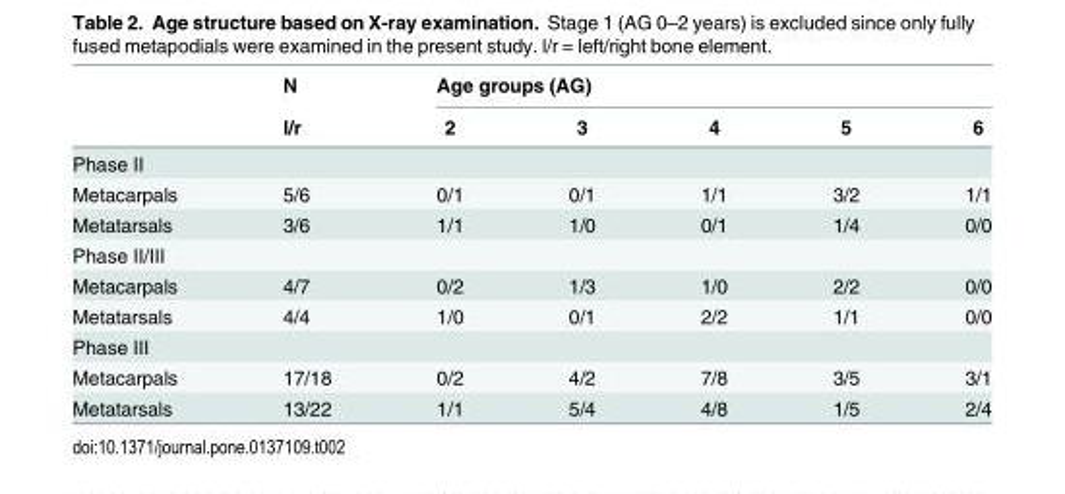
<table><thead><tr><td rowspan="2"></td><td rowspan="2">N l/r</td><td colspan="5">Age groups (AG)</td></tr><tr><td>2</td><td>3</td><td>4</td><td>5</td><td>6</td></tr></thead><tbody><tr><td colspan="7">Phase II</td></tr><tr><td>Metacarpals</td><td>5/6</td><td>0/1</td><td>0/1</td><td>1/1</td><td>3/2</td><td>1/1</td></tr><tr><td>Metatarsals</td><td>3/6</td><td>1/1</td><td>1/0</td><td>0/1</td><td>1/4</td><td>0/0</td></tr><tr><td colspan="7">Phase II/III</td></tr><tr><td>Metacarpals</td><td>4/7</td><td>0/2</td><td>1/3</td><td>1/0</td><td>2/2</td><td>0/0</td></tr><tr><td>Metatarsals</td><td>4/4</td><td>1/0</td><td>0/1</td><td>2/2</td><td>1/1</td><td>0/0</td></tr><tr><td colspan="7">Phase III</td></tr><tr><td>Metacarpals</td><td>17/18</td><td>0/2</td><td>4/2</td><td>7/8</td><td>3/5</td><td>3/1</td></tr><tr><td>Metatarsals</td><td>13/22</td><td>1/1</td><td>5/4</td><td>4/8</td><td>1/5</td><td>2/4</td></tr></tbody></table>